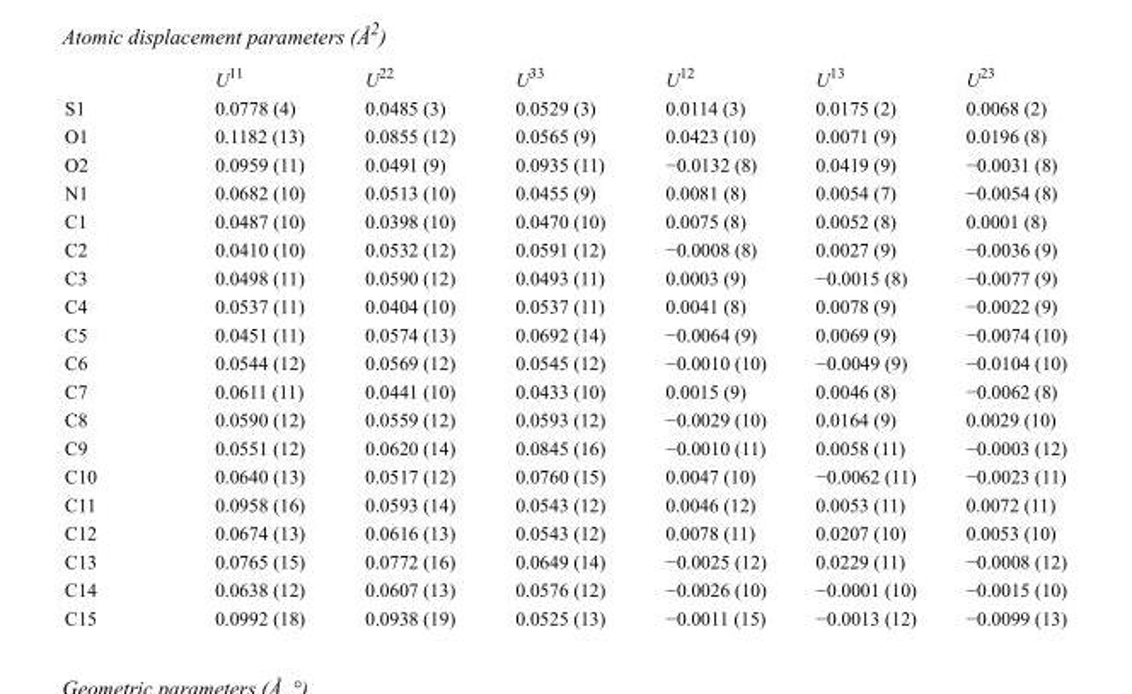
<table><thead><tr><td></td><td>U<sup>11</sup></td><td>U<sup>22</sup></td><td>U<sup>33</sup></td><td>U<sup>12</sup></td><td>U<sup>13</sup></td><td>U<sup>23</sup></td></tr></thead><tbody><tr><td>S1</td><td>0.0778 (4)</td><td>0.0485 (3)</td><td>0.0529 (3)</td><td>0.0114 (3)</td><td>0.0175 (2)</td><td>0.0068 (2)</td></tr><tr><td>O1</td><td>0.1182 (13)</td><td>0.0855 (12)</td><td>0.0565 (9)</td><td>0.0423 (10)</td><td>0.0071 (9)</td><td>0.0196 (8)</td></tr><tr><td>O2</td><td>0.0959 (11)</td><td>0.0491 (9)</td><td>0.0935 (11)</td><td>−0.0132 (8)</td><td>0.0419 (9)</td><td>−0.0031 (8)</td></tr><tr><td>N1</td><td>0.0682 (10)</td><td>0.0513 (10)</td><td>0.0455 (9)</td><td>0.0081 (8)</td><td>0.0054 (7)</td><td>−0.0054 (8)</td></tr><tr><td>C1</td><td>0.0487 (10)</td><td>0.0398 (10)</td><td>0.0470 (10)</td><td>0.0075 (8)</td><td>0.0052 (8)</td><td>0.0001 (8)</td></tr><tr><td>C2</td><td>0.0410 (10)</td><td>0.0532 (12)</td><td>0.0591 (12)</td><td>−0.0008 (8)</td><td>0.0027 (9)</td><td>−0.0036 (9)</td></tr><tr><td>C3</td><td>0.0498 (11)</td><td>0.0590 (12)</td><td>0.0493 (11)</td><td>0.0003 (9)</td><td>−0.0015 (8)</td><td>−0.0077 (9)</td></tr><tr><td>C4</td><td>0.0537 (11)</td><td>0.0404 (10)</td><td>0.0537 (11)</td><td>0.0041 (8)</td><td>0.0078 (9)</td><td>−0.0022 (9)</td></tr><tr><td>C5</td><td>0.0451 (11)</td><td>0.0574 (13)</td><td>0.0692 (14)</td><td>−0.0064 (9)</td><td>0.0069 (9)</td><td>−0.0074 (10)</td></tr><tr><td>C6</td><td>0.0544 (12)</td><td>0.0569 (12)</td><td>0.0545 (12)</td><td>−0.0010 (10)</td><td>−0.0049 (9)</td><td>−0.0104 (10)</td></tr><tr><td>C7</td><td>0.0611 (11)</td><td>0.0441 (10)</td><td>0.0433 (10)</td><td>0.0015 (9)</td><td>0.0046 (8)</td><td>−0.0062 (8)</td></tr><tr><td>C8</td><td>0.0590 (12)</td><td>0.0559 (12)</td><td>0.0593 (12)</td><td>−0.0029 (10)</td><td>0.0164 (9)</td><td>0.0029 (10)</td></tr><tr><td>C9</td><td>0.0551 (12)</td><td>0.0620 (14)</td><td>0.0845 (16)</td><td>−0.0010 (11)</td><td>0.0058 (11)</td><td>−0.0003 (12)</td></tr><tr><td>C10</td><td>0.0640 (13)</td><td>0.0517 (12)</td><td>0.0760 (15)</td><td>0.0047 (10)</td><td>−0.0062 (11)</td><td>−0.0023 (11)</td></tr><tr><td>C11</td><td>0.0958 (16)</td><td>0.0593 (14)</td><td>0.0543 (12)</td><td>0.0046 (12)</td><td>0.0053 (11)</td><td>0.0072 (11)</td></tr><tr><td>C12</td><td>0.0674 (13)</td><td>0.0616 (13)</td><td>0.0543 (12)</td><td>0.0078 (11)</td><td>0.0207 (10)</td><td>0.0053 (10)</td></tr><tr><td>C13</td><td>0.0765 (15)</td><td>0.0772 (16)</td><td>0.0649 (14)</td><td>−0.0025 (12)</td><td>0.0229 (11)</td><td>−0.0008 (12)</td></tr><tr><td>C14</td><td>0.0638 (12)</td><td>0.0607 (13)</td><td>0.0576 (12)</td><td>−0.0026 (10)</td><td>−0.0001 (10)</td><td>−0.0015 (10)</td></tr><tr><td>C15</td><td>0.0992 (18)</td><td>0.0938 (19)</td><td>0.0525 (13)</td><td>−0.0011 (15)</td><td>−0.0013 (12)</td><td>−0.0099 (13)</td></tr></tbody></table>